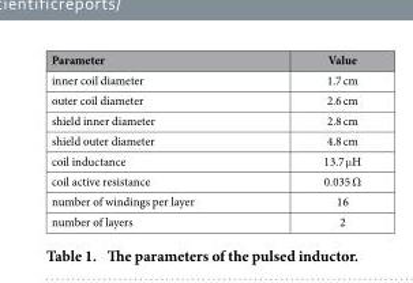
<table><thead><tr><td>Parameter</td><td>Value</td></tr></thead><tbody><tr><td>inner coil diameter</td><td>1.7 cm</td></tr><tr><td>outer coil diameter</td><td>2.6 cm</td></tr><tr><td>shield inner diameter</td><td>2.8 cm</td></tr><tr><td>shield outer diameter</td><td>4.8 cm</td></tr><tr><td>coil inductance</td><td>13.7 μ H</td></tr><tr><td>coil active resistance</td><td>0.035 Ω</td></tr><tr><td>number of windings per layer</td><td>16</td></tr><tr><td>number of layers</td><td>2</td></tr></tbody></table>